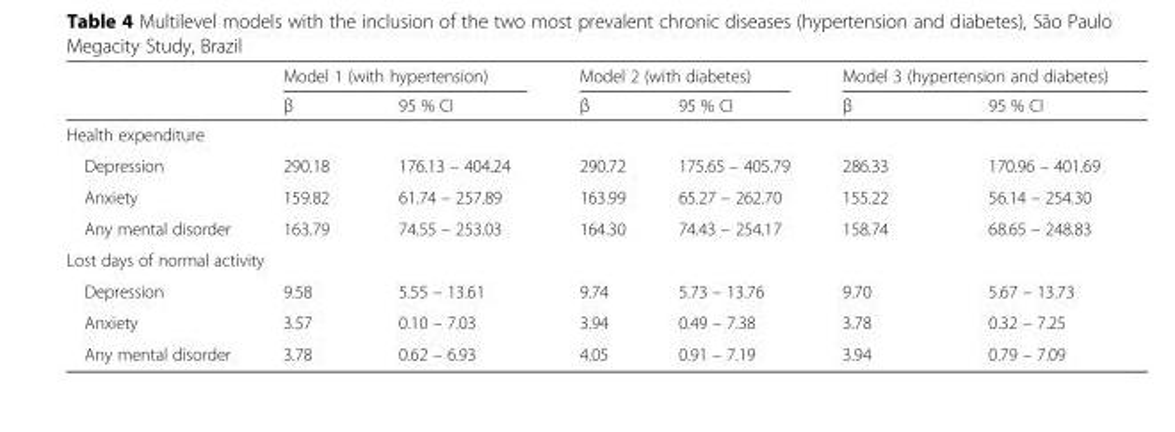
<table><thead><tr><td rowspan="2"></td><td colspan="2">Model 1 (with hypertension)</td><td colspan="2">Model 2 (with diabetes)</td><td colspan="2">Model 3 (hypertension and diabetes)</td></tr><tr><td>β</td><td>95 % CI</td><td>β</td><td>95 % CI</td><td>β</td><td>95 % CI</td></tr></thead><tbody><tr><td colspan="7">Health expenditure</td></tr><tr><td>Depression</td><td>290.18</td><td>176.13 – 404.24</td><td>290.72</td><td>175.65 – 405.79</td><td>286.33</td><td>170.96 – 401.69</td></tr><tr><td>Anxiety</td><td>159.82</td><td>61.74 – 257.89</td><td>163.99</td><td>65.27 – 262.70</td><td>155.22</td><td>56.14 – 254.30</td></tr><tr><td>Any mental disorder</td><td>163.79</td><td>74.55 – 253.03</td><td>164.30</td><td>74.43 – 254.17</td><td>158.74</td><td>68.65 – 248.83</td></tr><tr><td colspan="7">Lost days of normal activity</td></tr><tr><td>Depression</td><td>9.58</td><td>5.55 – 13.61</td><td>9.74</td><td>5.73 – 13.76</td><td>9.70</td><td>5.67 – 13.73</td></tr><tr><td>Anxiety</td><td>3.57</td><td>0.10 – 7.03</td><td>3.94</td><td>0.49 – 7.38</td><td>3.78</td><td>0.32 – 7.25</td></tr><tr><td>Any mental disorder</td><td>3.78</td><td>0.62 – 6.93</td><td>4.05</td><td>0.91 – 7.19</td><td>3.94</td><td>0.79 – 7.09</td></tr></tbody></table>